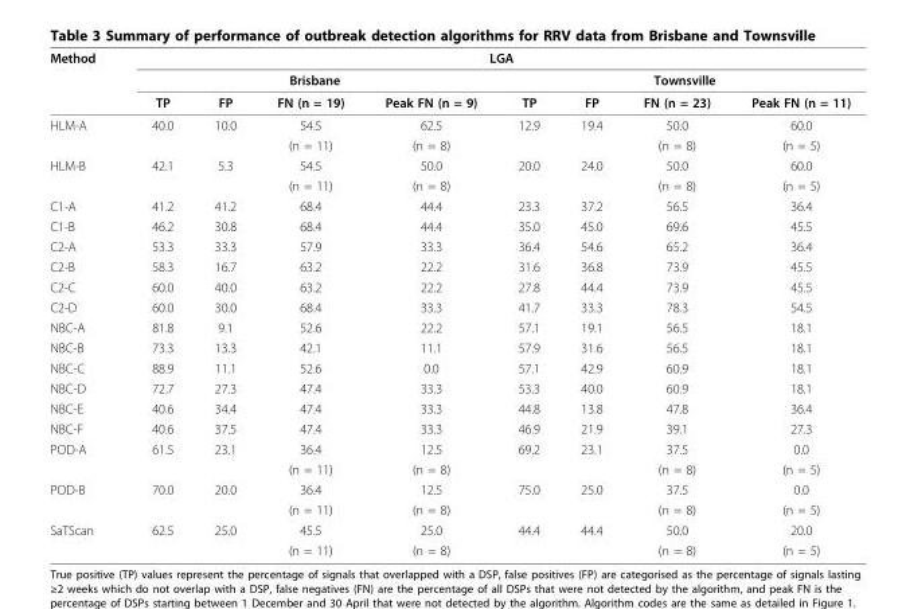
<table><thead><tr><td rowspan="3">Method</td><td colspan="8">LGA</td></tr><tr><td colspan="4">Brisbane</td><td colspan="4">Townsville</td></tr><tr><td>TP</td><td>FP</td><td>FN (n = 19)</td><td>Peak FN (n = 9)</td><td>TP</td><td>FP</td><td>FN (n = 23)</td><td>Peak FN (n = 11)</td></tr></thead><tbody><tr><td rowspan="2">HLM-A</td><td>40.0</td><td>10.0</td><td>54.5</td><td>62.5</td><td>12.9</td><td>19.4</td><td>50.0</td><td>60.0</td></tr><tr><td></td><td></td><td>(n = 11)</td><td>(n = 8)</td><td></td><td></td><td>(n = 8)</td><td>(n = 5)</td></tr><tr><td rowspan="2">HLM-B</td><td>42.1</td><td>5.3</td><td>54.5</td><td>50.0</td><td>20.0</td><td>24.0</td><td>50.0</td><td>60.0</td></tr><tr><td></td><td></td><td>(n = 11)</td><td>(n = 8)</td><td></td><td></td><td>(n = 8)</td><td>(n = 5)</td></tr><tr><td>C1-A</td><td>41.2</td><td>41.2</td><td>68.4</td><td>44.4</td><td>23.3</td><td>37.2</td><td>56.5</td><td>36.4</td></tr><tr><td>C1-B</td><td>46.2</td><td>30.8</td><td>68.4</td><td>44.4</td><td>35.0</td><td>45.0</td><td>69.6</td><td>45.5</td></tr><tr><td>C2-A</td><td>53.3</td><td>33.3</td><td>57.9</td><td>33.3</td><td>36.4</td><td>54.6</td><td>65.2</td><td>36.4</td></tr><tr><td>C2-B</td><td>58.3</td><td>16.7</td><td>63.2</td><td>22.2</td><td>31.6</td><td>36.8</td><td>73.9</td><td>45.5</td></tr><tr><td>C2-C</td><td>60.0</td><td>40.0</td><td>63.2</td><td>22.2</td><td>27.8</td><td>44.4</td><td>73.9</td><td>45.5</td></tr><tr><td>C2-D</td><td>60.0</td><td>30.0</td><td>68.4</td><td>33.3</td><td>41.7</td><td>33.3</td><td>78.3</td><td>54.5</td></tr><tr><td>NBC-A</td><td>81.8</td><td>9.1</td><td>52.6</td><td>22.2</td><td>57.1</td><td>19.1</td><td>56.5</td><td>18.1</td></tr><tr><td>NBC-B</td><td>73.3</td><td>13.3</td><td>42.1</td><td>11.1</td><td>57.9</td><td>31.6</td><td>56.5</td><td>18.1</td></tr><tr><td>NBC-C</td><td>88.9</td><td>11.1</td><td>52.6</td><td>0.0</td><td>57.1</td><td>42.9</td><td>60.9</td><td>18.1</td></tr><tr><td>NBC-D</td><td>72.7</td><td>27.3</td><td>47.4</td><td>33.3</td><td>53.3</td><td>40.0</td><td>60.9</td><td>18.1</td></tr><tr><td>NBC-E</td><td>40.6</td><td>34.4</td><td>47.4</td><td>33.3</td><td>44.8</td><td>13.8</td><td>47.8</td><td>36.4</td></tr><tr><td>NBC-F</td><td>40.6</td><td>37.5</td><td>47.4</td><td>33.3</td><td>46.9</td><td>21.9</td><td>39.1</td><td>27.3</td></tr><tr><td rowspan="2">POD-A</td><td>61.5</td><td>23.1</td><td>36.4</td><td>12.5</td><td>69.2</td><td>23.1</td><td>37.5</td><td>0.0</td></tr><tr><td></td><td></td><td>(n = 11)</td><td>(n = 8)</td><td></td><td></td><td>(n = 8)</td><td>(n = 5)</td></tr><tr><td rowspan="2">POD-B</td><td>70.0</td><td>20.0</td><td>36.4</td><td>12.5</td><td>75.0</td><td>25.0</td><td>37.5</td><td>0.0</td></tr><tr><td></td><td></td><td>(n = 11)</td><td>(n = 8)</td><td></td><td></td><td>(n = 8)</td><td>(n = 5)</td></tr><tr><td rowspan="2">SaTScan</td><td>62.5</td><td>25.0</td><td>45.5</td><td>25.0</td><td>44.4</td><td>44.4</td><td>50.0</td><td>20.0</td></tr><tr><td></td><td></td><td>(n = 11)</td><td>(n = 8)</td><td></td><td></td><td>(n = 8)</td><td>(n = 5)</td></tr></tbody></table>